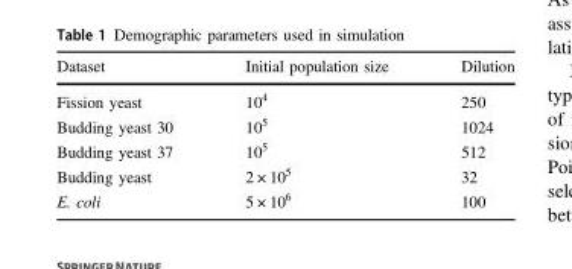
<table><thead><tr><td>Dataset</td><td>Initial population size</td><td>Dilution</td></tr></thead><tbody><tr><td>Fission yeast</td><td>10<sup>4</sup></td><td>250</td></tr><tr><td>Budding yeast 30</td><td>10<sup>5</sup></td><td>1024</td></tr><tr><td>Budding yeast 37</td><td>10<sup>5</sup></td><td>512</td></tr><tr><td>Budding yeast</td><td>2 × 10<sup>5</sup></td><td>32</td></tr><tr><td>E. coli</td><td>5 × 10<sup>6</sup></td><td>100</td></tr></tbody></table>